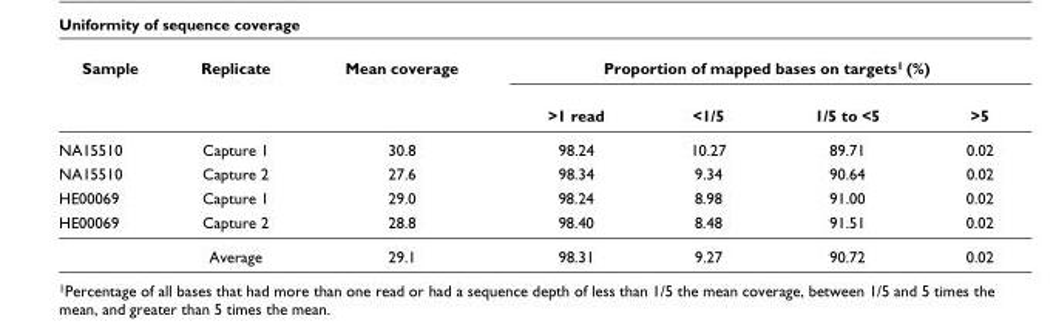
<table><thead><tr><td rowspan="2">Sample</td><td rowspan="2">Replicate</td><td rowspan="2">Mean coverage</td><td colspan="4">Proportion of mapped bases on targets<sup>1</sup> (%)</td></tr><tr><td>&gt;1 read</td><td>&lt;1/5</td><td>1/5 to &lt;5</td><td>&gt;5</td></tr></thead><tbody><tr><td>NA15510</td><td>Capture 1</td><td>30.8</td><td>98.24</td><td>10.27</td><td>89.71</td><td>0.02</td></tr><tr><td>NA15510</td><td>Capture 2</td><td>27.6</td><td>98.34</td><td>9.34</td><td>90.64</td><td>0.02</td></tr><tr><td>HE00069</td><td>Capture 1</td><td>29.0</td><td>98.24</td><td>8.98</td><td>91.00</td><td>0.02</td></tr><tr><td rowspan="2">HE00069</td><td>Capture 2</td><td>28.8</td><td>98.40</td><td>8.48</td><td>91.51</td><td>0.02</td></tr><tr><td>Average</td><td>29.1</td><td>98.31</td><td>9.27</td><td>90.72</td><td>0.02</td></tr></tbody></table>